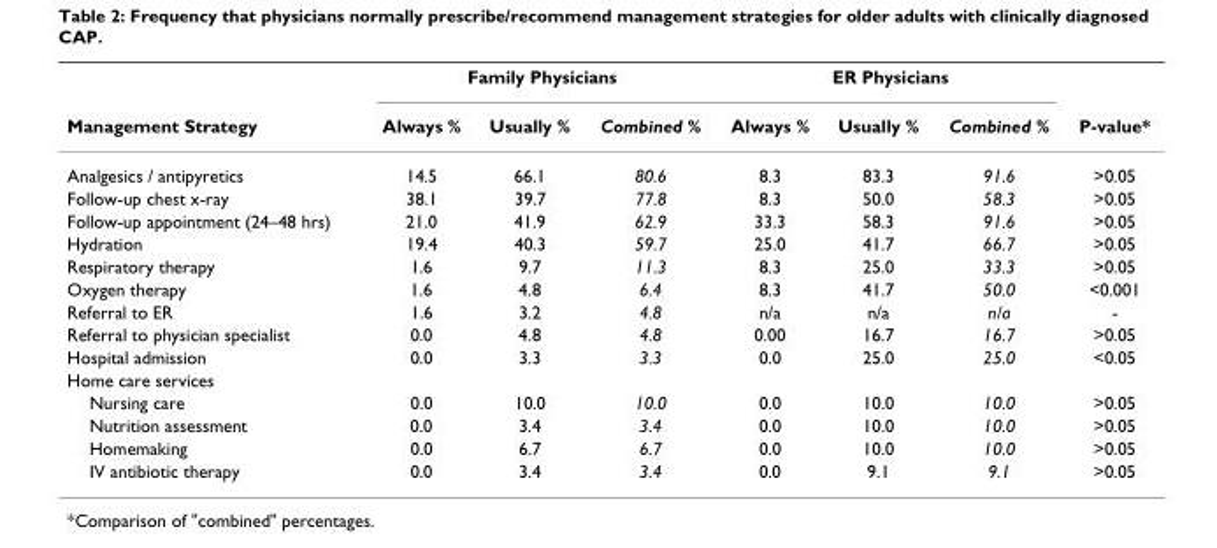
<table><thead><tr><td rowspan="2">Management Strategy</td><td colspan="3">Family Physicians</td><td colspan="3">ER Physicians</td><td rowspan="2">P-value*</td></tr><tr><td>Always %</td><td>Usually %</td><td>Combined %</td><td>Always %</td><td>Usually %</td><td>Combined %</td></tr></thead><tbody><tr><td>Analgesics / antipyretics</td><td>14.5</td><td>66.1</td><td>80.6</td><td>8.3</td><td>83.3</td><td>91.6</td><td>&gt;0.05</td></tr><tr><td>Follow-up chest x-ray</td><td>38.1</td><td>39.7</td><td>77.8</td><td>8.3</td><td>50.0</td><td>58.3</td><td>&gt;0.05</td></tr><tr><td>Follow-up appointment (24–48 hrs)</td><td>21.0</td><td>41.9</td><td>62.9</td><td>33.3</td><td>58.3</td><td>91.6</td><td>&gt;0.05</td></tr><tr><td>Hydration</td><td>19.4</td><td>40.3</td><td>59.7</td><td>25.0</td><td>41.7</td><td>66.7</td><td>&gt;0.05</td></tr><tr><td>Respiratory therapy</td><td>1.6</td><td>9.7</td><td>11.3</td><td>8.3</td><td>25.0</td><td>33.3</td><td>&gt;0.05</td></tr><tr><td>Oxygen therapy</td><td>1.6</td><td>4.8</td><td>6.4</td><td>8.3</td><td>41.7</td><td>50.0</td><td>&lt;0.001</td></tr><tr><td>Referral to ER</td><td>1.6</td><td>3.2</td><td>4.8</td><td>n/a</td><td>n/a</td><td>n/a</td><td>-</td></tr><tr><td>Referral to physician specialist</td><td>0.0</td><td>4.8</td><td>4.8</td><td>0.00</td><td>16.7</td><td>16.7</td><td>&gt;0.05</td></tr><tr><td>Hospital admission</td><td>0.0</td><td>3.3</td><td>3.3</td><td>0.0</td><td>25.0</td><td>25.0</td><td>&lt;0.05</td></tr><tr><td colspan="8">Home care services</td></tr><tr><td>Nursing care</td><td>0.0</td><td>10.0</td><td>10.0</td><td>0.0</td><td>10.0</td><td>10.0</td><td>&gt;0.05</td></tr><tr><td>Nutrition assessment</td><td>0.0</td><td>3.4</td><td>3.4</td><td>0.0</td><td>10.0</td><td>10.0</td><td>&gt;0.05</td></tr><tr><td>Homemaking</td><td>0.0</td><td>6.7</td><td>6.7</td><td>0.0</td><td>10.0</td><td>10.0</td><td>&gt;0.05</td></tr><tr><td>IV antibiotic therapy</td><td>0.0</td><td>3.4</td><td>3.4</td><td>0.0</td><td>9.1</td><td>9.1</td><td>&gt;0.05</td></tr></tbody></table>